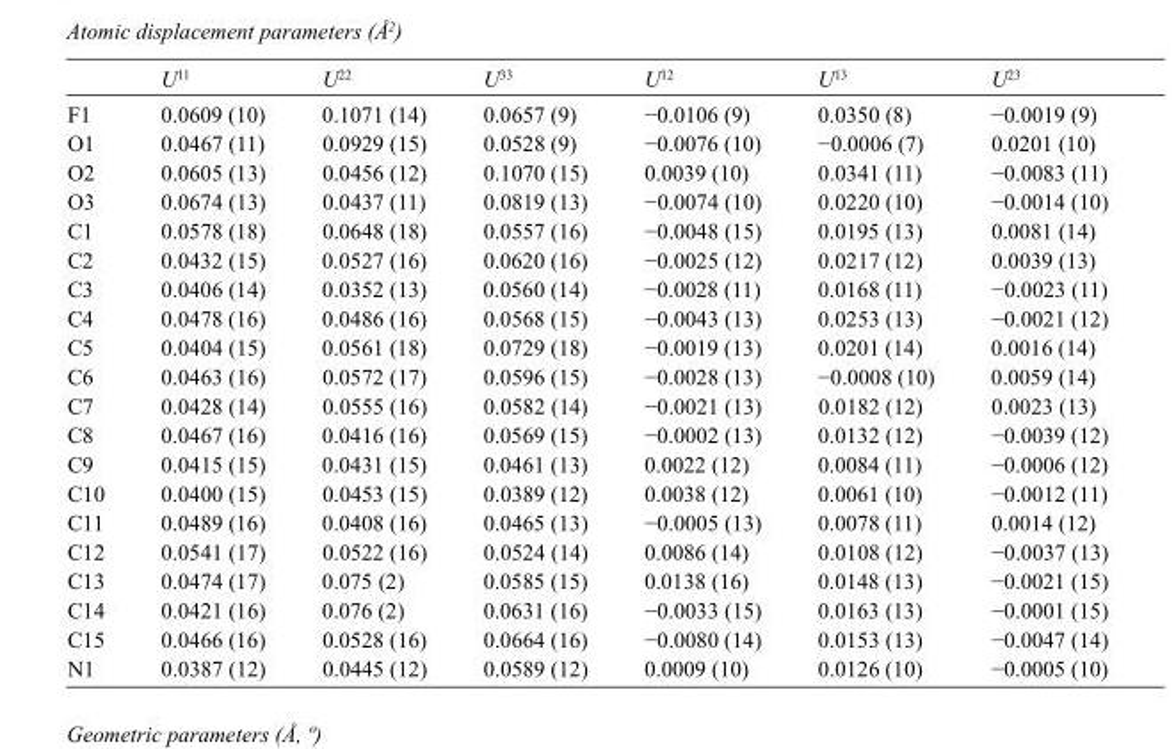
<table><thead><tr><td></td><td>U<sup>11</sup></td><td>U<sup>22</sup></td><td>U<sup>33</sup></td><td>U<sup>12</sup></td><td>U<sup>13</sup></td><td>U<sup>23</sup></td></tr></thead><tbody><tr><td>F1</td><td>0.0609 (10)</td><td>0.1071 (14)</td><td>0.0657 (9)</td><td>−0.0106 (9)</td><td>0.0350 (8)</td><td>−0.0019 (9)</td></tr><tr><td>O1</td><td>0.0467 (11)</td><td>0.0929 (15)</td><td>0.0528 (9)</td><td>−0.0076 (10)</td><td>−0.0006 (7)</td><td>0.0201 (10)</td></tr><tr><td>O2</td><td>0.0605 (13)</td><td>0.0456 (12)</td><td>0.1070 (15)</td><td>0.0039 (10)</td><td>0.0341 (11)</td><td>−0.0083 (11)</td></tr><tr><td>O3</td><td>0.0674 (13)</td><td>0.0437 (11)</td><td>0.0819 (13)</td><td>−0.0074 (10)</td><td>0.0220 (10)</td><td>−0.0014 (10)</td></tr><tr><td>C1</td><td>0.0578 (18)</td><td>0.0648 (18)</td><td>0.0557 (16)</td><td>−0.0048 (15)</td><td>0.0195 (13)</td><td>0.0081 (14)</td></tr><tr><td>C2</td><td>0.0432 (15)</td><td>0.0527 (16)</td><td>0.0620 (16)</td><td>−0.0025 (12)</td><td>0.0217 (12)</td><td>0.0039 (13)</td></tr><tr><td>C3</td><td>0.0406 (14)</td><td>0.0352 (13)</td><td>0.0560 (14)</td><td>−0.0028 (11)</td><td>0.0168 (11)</td><td>−0.0023 (11)</td></tr><tr><td>C4</td><td>0.0478 (16)</td><td>0.0486 (16)</td><td>0.0568 (15)</td><td>−0.0043 (13)</td><td>0.0253 (13)</td><td>−0.0021 (12)</td></tr><tr><td>C5</td><td>0.0404 (15)</td><td>0.0561 (18)</td><td>0.0729 (18)</td><td>−0.0019 (13)</td><td>0.0201 (14)</td><td>0.0016 (14)</td></tr><tr><td>C6</td><td>0.0463 (16)</td><td>0.0572 (17)</td><td>0.0596 (15)</td><td>−0.0028 (13)</td><td>−0.0008 (10)</td><td>0.0059 (14)</td></tr><tr><td>C7</td><td>0.0428 (14)</td><td>0.0555 (16)</td><td>0.0582 (14)</td><td>−0.0021 (13)</td><td>0.0182 (12)</td><td>0.0023 (13)</td></tr><tr><td>C8</td><td>0.0467 (16)</td><td>0.0416 (16)</td><td>0.0569 (15)</td><td>−0.0002 (13)</td><td>0.0132 (12)</td><td>−0.0039 (12)</td></tr><tr><td>C9</td><td>0.0415 (15)</td><td>0.0431 (15)</td><td>0.0461 (13)</td><td>0.0022 (12)</td><td>0.0084 (11)</td><td>−0.0006 (12)</td></tr><tr><td>C10</td><td>0.0400 (15)</td><td>0.0453 (15)</td><td>0.0389 (12)</td><td>0.0038 (12)</td><td>0.0061 (10)</td><td>−0.0012 (11)</td></tr><tr><td>C11</td><td>0.0489 (16)</td><td>0.0408 (16)</td><td>0.0465 (13)</td><td>−0.0005 (13)</td><td>0.0078 (11)</td><td>0.0014 (12)</td></tr><tr><td>C12</td><td>0.0541 (17)</td><td>0.0522 (16)</td><td>0.0524 (14)</td><td>0.0086 (14)</td><td>0.0108 (12)</td><td>−0.0037 (13)</td></tr><tr><td>C13</td><td>0.0474 (17)</td><td>0.075 (2)</td><td>0.0585 (15)</td><td>0.0138 (16)</td><td>0.0148 (13)</td><td>−0.0021 (15)</td></tr><tr><td>C14</td><td>0.0421 (16)</td><td>0.076 (2)</td><td>0.0631 (16)</td><td>−0.0033 (15)</td><td>0.0163 (13)</td><td>−0.0001 (15)</td></tr><tr><td>C15</td><td>0.0466 (16)</td><td>0.0528 (16)</td><td>0.0664 (16)</td><td>−0.0080 (14)</td><td>0.0153 (13)</td><td>−0.0047 (14)</td></tr><tr><td>N1</td><td>0.0387 (12)</td><td>0.0445 (12)</td><td>0.0589 (12)</td><td>0.0009 (10)</td><td>0.0126 (10)</td><td>−0.0005 (10)</td></tr></tbody></table>